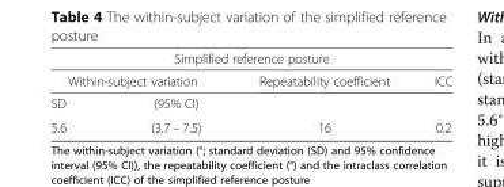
<table><thead><tr><td colspan="4">Simplified reference posture</td></tr><tr><td colspan="2">Within-subject variation</td><td rowspan="2">Repeatability coefficient</td><td rowspan="2">ICC</td></tr><tr><td>SD</td><td>(95% CI)</td></tr></thead><tbody><tr><td>5.6</td><td>(3.7 – 7.5)</td><td>16</td><td>0.2</td></tr></tbody></table>